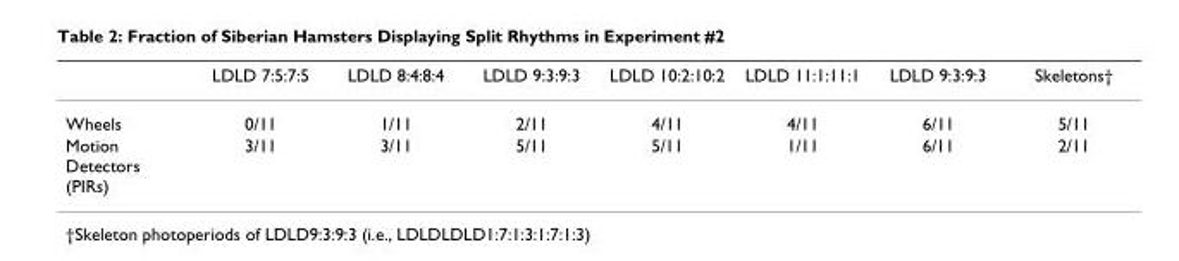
<table><thead><tr><td></td><td>LDLD 7:5:7:5</td><td>LDLD 8:4:8:4</td><td>LDLD 9:3:9:3</td><td>LDLD 10:2:10:2</td><td>LDLD 11:1:11:1</td><td>LDLD 9:3:9:3</td><td>Skeletons†</td></tr></thead><tbody><tr><td>Wheels</td><td>0/11</td><td>1/11</td><td>2/11</td><td>4/11</td><td>4/11</td><td>6/11</td><td>5/11</td></tr><tr><td>Motion Detectors (PIRs)</td><td>3/11</td><td>3/11</td><td>5/11</td><td>5/11</td><td>1/11</td><td>6/11</td><td>2/11</td></tr></tbody></table>